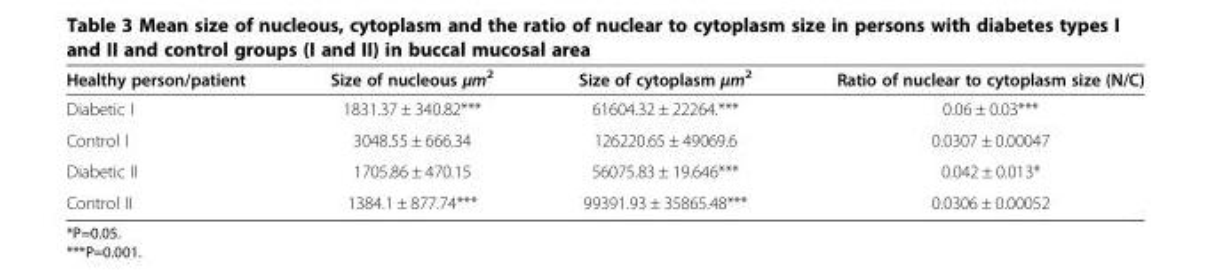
<table><thead><tr><td>Healthy person/patient</td><td>Size of nucleous μm<sup>2</sup></td><td>Size of cytoplasm μm<sup>2</sup></td><td>Ratio of nuclear to cytoplasm size (N/C)</td></tr></thead><tbody><tr><td>Diabetic I</td><td>1831.37 ± 340.82***</td><td>61604.32 ± 22264.***</td><td>0.06 ± 0.03***</td></tr><tr><td>Control I</td><td>3048.55 ± 666.34</td><td>126220.65 ± 49069.6</td><td>0.0307 ± 0.00047</td></tr><tr><td>Diabetic II</td><td>1705.86 ± 470.15</td><td>56075.83 ± 19.646***</td><td>0.042 ± 0.013*</td></tr><tr><td>Control II</td><td>1384.1 ± 877.74***</td><td>99391.93 ± 35865.48***</td><td>0.0306 ± 0.00052</td></tr></tbody></table>